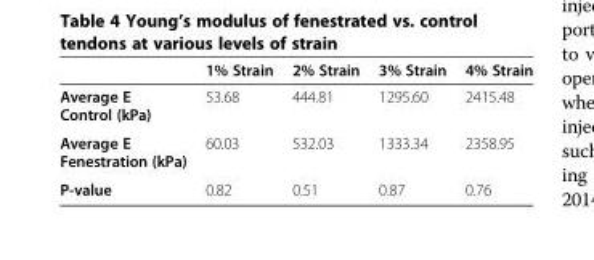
<table><thead><tr><td></td><td>1% Strain</td><td>2% Strain</td><td>3% Strain</td><td>4% Strain</td></tr></thead><tbody><tr><td>Average E Control (kPa)</td><td>53.68</td><td>444.81</td><td>1295.60</td><td>2415.48</td></tr><tr><td>Average E Fenestration (kPa)</td><td>60.03</td><td>532.03</td><td>1333.34</td><td>2358.95</td></tr><tr><td>P-value</td><td>0.82</td><td>0.51</td><td>0.87</td><td>0.76</td></tr></tbody></table>